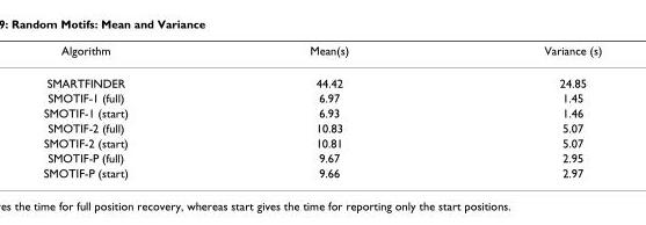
<table><thead><tr><td>Algorithm</td><td>Mean(s)</td><td>Variance (s)</td></tr></thead><tbody><tr><td>SMARTFINDER</td><td>44.42</td><td>24.85</td></tr><tr><td>SMOTIF-1 (full)</td><td>6.97</td><td>1.45</td></tr><tr><td>SMOTIF-1 (start)</td><td>6.93</td><td>1.46</td></tr><tr><td>SMOTIF-2 (full)</td><td>10.83</td><td>5.07</td></tr><tr><td>SMOTIF-2 (start)</td><td>10.81</td><td>5.07</td></tr><tr><td>SMOTIF-P (full)</td><td>9.67</td><td>2.95</td></tr><tr><td>SMOTIF-P (start)</td><td>9.66</td><td>2.97</td></tr></tbody></table>